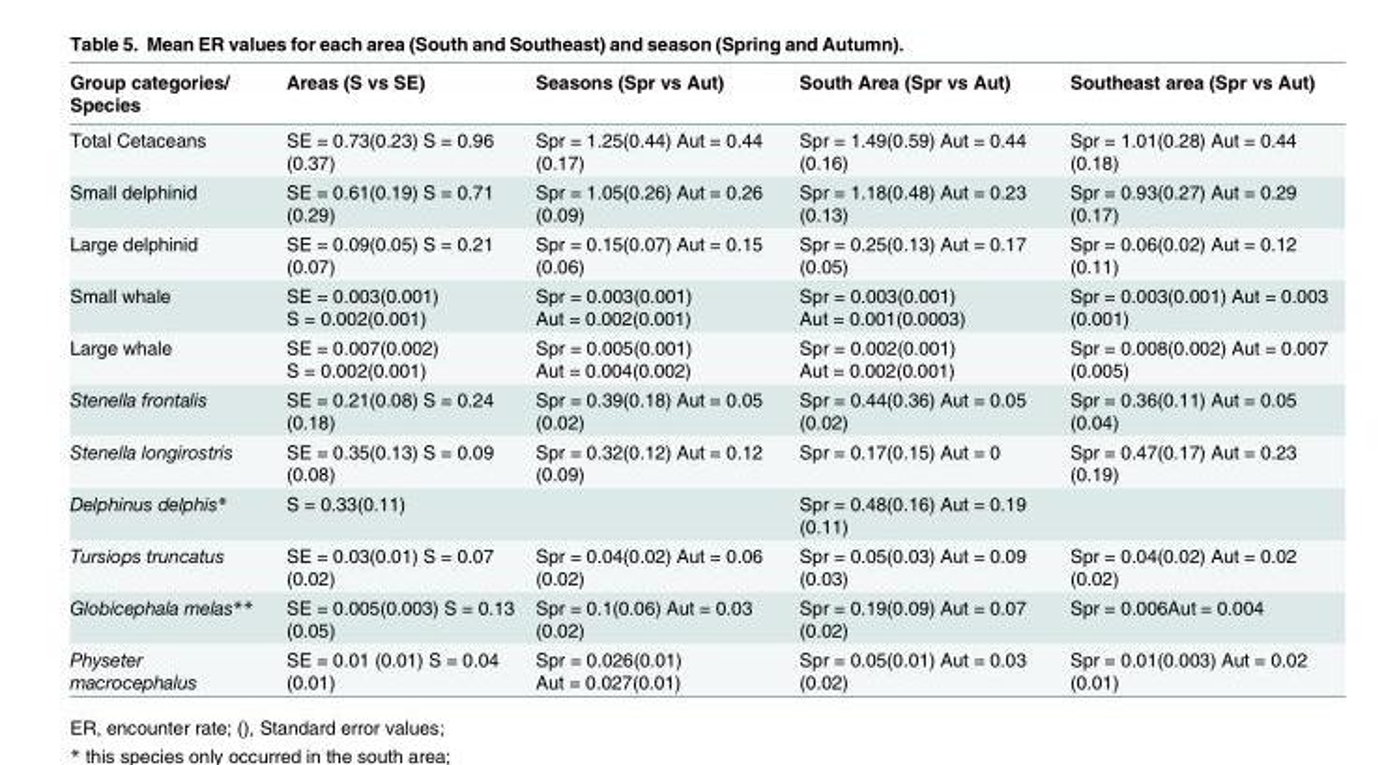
<table><thead><tr><td>Group categories/ Species</td><td>Areas (S vs SE)</td><td>Seasons (Spr vs Aut)</td><td>South Area (Spr vs Aut)</td><td>Southeast area (Spr vs Aut)</td></tr></thead><tbody><tr><td>Total Cetaceans</td><td>SE = 0.73(0.23) S = 0.96 (0.37)</td><td>Spr = 1.25(0.44) Aut = 0.44 (0.17)</td><td>Spr = 1.49(0.59) Aut = 0.44 (0.16)</td><td>Spr = 1.01(0.28) Aut = 0.44 (0.18)</td></tr><tr><td>Small delphinid</td><td>SE = 0.61(0.19) S = 0.71 (0.29)</td><td>Spr = 1.05(0.26) Aut = 0.26 (0.09)</td><td>Spr = 1.18(0.48) Aut = 0.23 (0.13)</td><td>Spr = 0.93(0.27) Aut = 0.29 (0.17)</td></tr><tr><td>Large delphinid</td><td>SE = 0.09(0.05) S = 0.21 (0.07)</td><td>Spr = 0.15(0.07) Aut = 0.15 (0.06)</td><td>Spr = 0.25(0.13) Aut = 0.17 (0.05)</td><td>Spr = 0.06(0.02) Aut = 0.12 (0.11)</td></tr><tr><td>Small whale</td><td>SE = 0.003(0.001) S = 0.002(0.001)</td><td>Spr = 0.003(0.001) Aut = 0.002(0.001)</td><td>Spr = 0.003(0.001) Aut = 0.001(0.0003)</td><td>Spr = 0.003(0.001) Aut = 0.003 (0.001)</td></tr><tr><td>Large whale</td><td>SE = 0.007(0.002) S = 0.002(0.001)</td><td>Spr = 0.005(0.001) Aut = 0.004(0.002)</td><td>Spr = 0.002(0.001) Aut = 0.002(0.001)</td><td>Spr = 0.008(0.002) Aut = 0.007 (0.005)</td></tr><tr><td>Stenella frontalis</td><td>SE = 0.21(0.08) S = 0.24 (0.18)</td><td>Spr = 0.39(0.18) Aut = 0.05 (0.02)</td><td>Spr = 0.44(0.36) Aut = 0.05 (0.02)</td><td>Spr = 0.36(0.11) Aut = 0.05 (0.04)</td></tr><tr><td>Stenella longirostris</td><td>SE = 0.35(0.13) S = 0.09 (0.08)</td><td>Spr = 0.32(0.12) Aut = 0.12 (0.09)</td><td>Spr = 0.17(0.15) Aut = 0</td><td>Spr = 0.47(0.17) Aut = 0.23 (0.19)</td></tr><tr><td>Delphinus delphis*</td><td>S = 0.33(0.11)</td><td></td><td>Spr = 0.48(0.16) Aut = 0.19 (0.11)</td><td></td></tr><tr><td>Tursiops truncatus</td><td>SE = 0.03(0.01) S = 0.07 (0.02)</td><td>Spr = 0.04(0.02) Aut = 0.06 (0.02)</td><td>Spr = 0.05(0.03) Aut = 0.09 (0.03)</td><td>Spr = 0.04(0.02) Aut = 0.02 (0.02)</td></tr><tr><td>Globicephala melas**</td><td>SE = 0.005(0.003) S = 0.13 (0.05)</td><td>Spr = 0.1(0.06) Aut = 0.03 (0.02)</td><td>Spr = 0.19(0.09) Aut = 0.07 (0.02)</td><td>Spr = 0.006Aut = 0.004</td></tr><tr><td>Physeter macrocephalus</td><td>SE = 0.01 (0.01) S = 0.04 (0.01)</td><td>Spr = 0.026(0.01) Aut = 0.027(0.01)</td><td>Spr = 0.05(0.01) Aut = 0.03 (0.02)</td><td>Spr = 0.01(0.003) Aut = 0.02 (0.01)</td></tr></tbody></table>